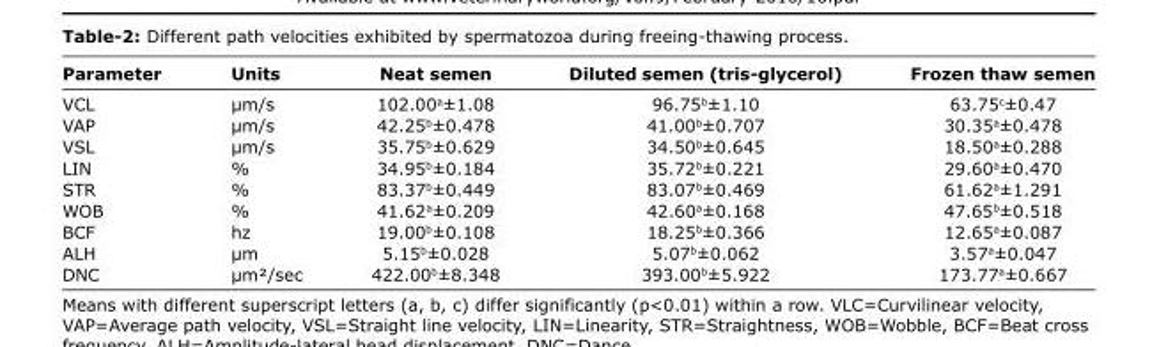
<table><thead><tr><td>Parameter</td><td>Units</td><td>Neat semen</td><td>Diluted semen (tris-glycerol)</td><td>Frozen thaw semen</td></tr></thead><tbody><tr><td>VCL</td><td>µm/s</td><td>102.00<sup>a</sup>±1.08</td><td>96.75<sup>b</sup>±1.10</td><td>63.75<sup>c</sup>±0.47</td></tr><tr><td>VAP</td><td>µm/s</td><td>42.25<sup>b</sup>±0.478</td><td>41.00<sup>b</sup>±0.707</td><td>30.35<sup>a</sup>±0.478</td></tr><tr><td>VSL</td><td>µm/s</td><td>35.75<sup>b</sup>±0.629</td><td>34.50<sup>b</sup>±0.645</td><td>18.50<sup>a</sup>±0.288</td></tr><tr><td>LIN</td><td>%</td><td>34.95<sup>b</sup>±0.184</td><td>35.72<sup>b</sup>±0.221</td><td>29.60<sup>a</sup>±0.470</td></tr><tr><td>STR</td><td>%</td><td>83.37<sup>b</sup>±0.449</td><td>83.07<sup>b</sup>±0.469</td><td>61.62<sup>a</sup>±1.291</td></tr><tr><td>WOB</td><td>%</td><td>41.62<sup>a</sup>±0.209</td><td>42.60<sup>a</sup>±0.168</td><td>47.65<sup>b</sup>±0.518</td></tr><tr><td>BCF</td><td>hz</td><td>19.00<sup>b</sup>±0.108</td><td>18.25<sup>b</sup>±0.366</td><td>12.65<sup>a</sup>±0.087</td></tr><tr><td>ALH</td><td>µm</td><td>5.15<sup>b</sup>±0.028</td><td>5.07<sup>b</sup>±0.062</td><td>3.57<sup>a</sup>±0.047</td></tr><tr><td>DNC</td><td>µm²/sec</td><td>422.00<sup>b</sup>±8.348</td><td>393.00<sup>b</sup>±5.922</td><td>173.77<sup>a</sup>±0.667</td></tr></tbody></table>